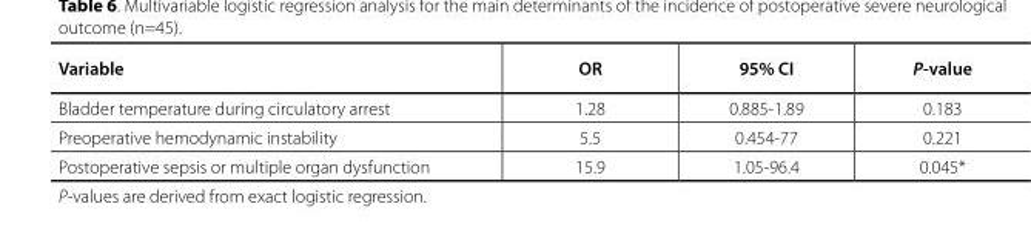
<table><thead><tr><td>Variable</td><td>OR</td><td>95% CI</td><td>P-value</td></tr></thead><tbody><tr><td>Bladder temperature during circulatory arrest</td><td>1.28</td><td>0.885-1.89</td><td>0.183</td></tr><tr><td>Preoperative hemodynamic instability</td><td>5.5</td><td>0.454-77</td><td>0.221</td></tr><tr><td>Postoperative sepsis or multiple organ dysfunction</td><td>15.9</td><td>1.05-96.4</td><td>0.045*</td></tr></tbody></table>